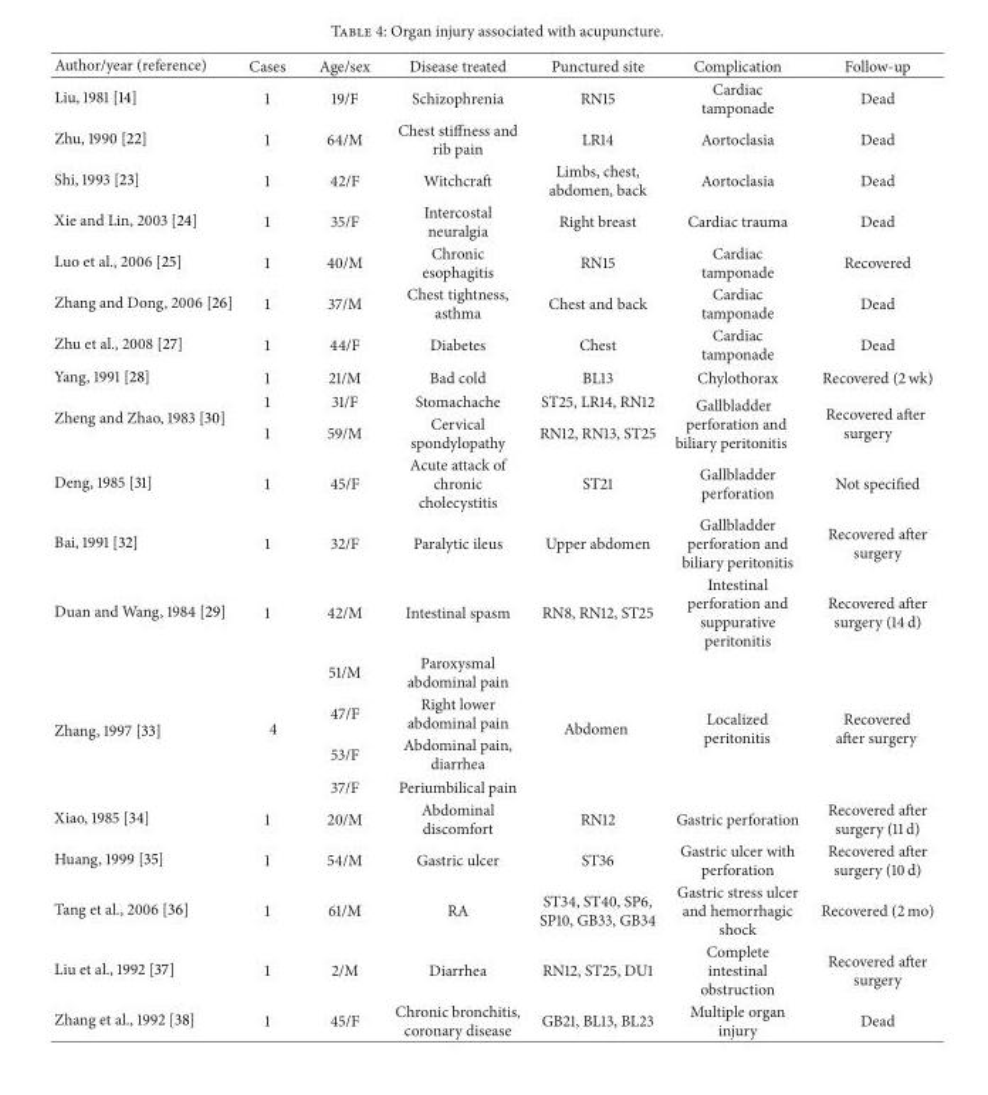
<table><thead><tr><td>Author/year (reference)</td><td>Cases</td><td>Age/sex</td><td>Disease treated</td><td>Punctured site</td><td>Complication</td><td>Follow-up</td></tr></thead><tbody><tr><td>Liu, 1981 [14]</td><td>1</td><td>19/F</td><td>Schizophrenia</td><td>RN15</td><td>Cardiac tamponade</td><td>Dead</td></tr><tr><td>Zhu, 1990 [22]</td><td>1</td><td>64/M</td><td>Chest stiffness and rib pain</td><td>LR14</td><td>Aortoclasia</td><td>Dead</td></tr><tr><td>Shi, 1993 [23]</td><td>1</td><td>42/F</td><td>Witchcraft</td><td>Limbs, chest, abdomen, back</td><td>Aortoclasia</td><td>Dead</td></tr><tr><td>Xie and Lin, 2003 [24]</td><td>1</td><td>35/F</td><td>Intercostal neuralgia</td><td>Right breast</td><td>Cardiac trauma</td><td>Dead</td></tr><tr><td>Luo et al., 2006 [25]</td><td>1</td><td>40/M</td><td>Chronic esophagitis</td><td>RN15</td><td>Cardiac tamponade</td><td>Recovered</td></tr><tr><td>Zhang and Dong, 2006 [26]</td><td>1</td><td>37/M</td><td>Chest tightness, asthma</td><td>Chest and back</td><td>Cardiac tamponade</td><td>Dead</td></tr><tr><td>Zhu et al., 2008 [27]</td><td>1</td><td>44/F</td><td>Diabetes</td><td>Chest</td><td>Cardiac tamponade</td><td>Dead</td></tr><tr><td>Yang, 1991 [28]</td><td>1</td><td>21/M</td><td>Bad cold</td><td>BL13</td><td>Chylothorax</td><td>Recovered (2 wk)</td></tr><tr><td rowspan="2">Zheng and Zhao, 1983 [30]</td><td>1</td><td>31/F</td><td>Stomachache</td><td>ST25, LR14, RN12</td><td rowspan="2">Gallbladder perforation and biliary peritonitis</td><td rowspan="2">Recovered after surgery</td></tr><tr><td>1</td><td>59/M</td><td>Cervical spondylopathy</td><td>RN12, RN13, ST25</td></tr><tr><td>Deng, 1985 [31]</td><td>1</td><td>45/F</td><td>Acute attack of chronic cholecystitis</td><td>ST21</td><td>Gallbladder perforation</td><td>Not specified</td></tr><tr><td>Bai, 1991 [32]</td><td>1</td><td>32/F</td><td>Paralytic ileus</td><td>Upper abdomen</td><td>Gallbladder perforation and biliary peritonitis</td><td>Recovered after surgery</td></tr><tr><td>Duan and Wang, 1984 [29]</td><td>1</td><td>42/M</td><td>Intestinal spasm</td><td>RN8, RN12, ST25</td><td>Intestinal perforation and suppurative peritonitis</td><td>Recovered after surgery (14 d)</td></tr><tr><td rowspan="4">Zhang, 1997 [33]</td><td rowspan="4">4</td><td>51/M</td><td>Paroxysmal abdominal pain</td><td rowspan="4">Abdomen</td><td rowspan="4">Localized peritonitis</td><td rowspan="4">Recovered after surgery</td></tr><tr><td>47/F</td><td>Right lower abdominal pain</td></tr><tr><td>53/F</td><td>Abdominal pain, diarrhea</td></tr><tr><td>37/F</td><td>Periumbilical pain</td></tr><tr><td>Xiao, 1985 [34]</td><td>1</td><td>20/M</td><td>Abdominal discomfort</td><td>RN12</td><td>Gastric perforation</td><td>Recovered after surgery (11 d)</td></tr><tr><td>Huang, 1999 [35]</td><td>1</td><td>54/M</td><td>Gastric ulcer</td><td>ST36</td><td>Gastric ulcer with perforation</td><td>Recovered after surgery (10 d)</td></tr><tr><td>Tang et al., 2006 [36]</td><td>1</td><td>61/M</td><td>RA</td><td>ST34, ST40, SP6, SP10, GB33, GB34</td><td>Gastric stress ulcer and hemorrhagic shock</td><td>Recovered (2 mo)</td></tr><tr><td>Liu et al., 1992 [37]</td><td>1</td><td>2/M</td><td>Diarrhea</td><td>RN12, ST25, DU1</td><td>Complete intestinal obstruction</td><td>Recovered after surgery</td></tr><tr><td>Zhang et al., 1992 [38]</td><td>1</td><td>45/F</td><td>Chronic bronchitis, coronary disease</td><td>GB21, BL13, BL23</td><td>Multiple organ injury</td><td>Dead</td></tr></tbody></table>